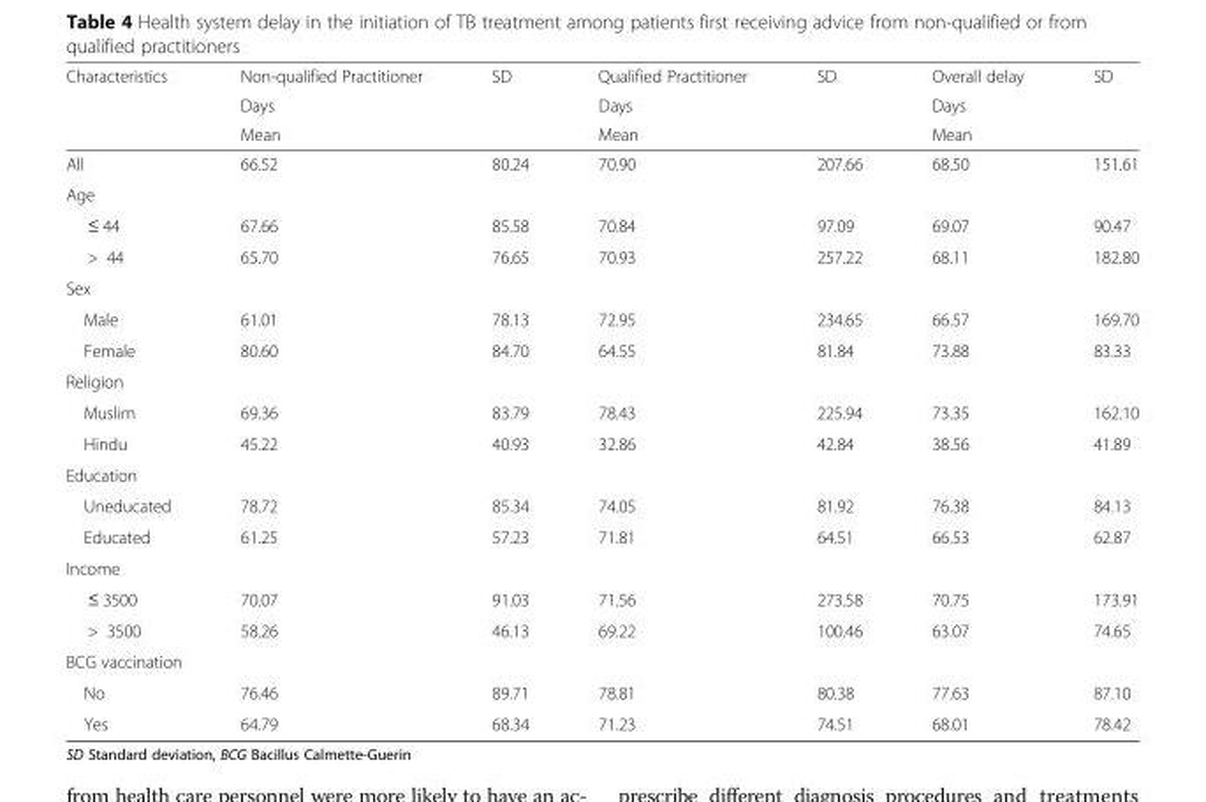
<table><thead><tr><td rowspan="3">Characteristics</td><td rowspan="3">Non-qualified Practitioner Days Mean</td><td rowspan="3">SD</td><td rowspan="3">Qualified Practitioner Days Mean</td><td rowspan="3">SD</td><td rowspan="3">Overall delay Days Mean</td><td rowspan="3">SD</td></tr><tr></tr><tr></tr></thead><tbody><tr><td>All</td><td>66.52</td><td>80.24</td><td>70.90</td><td>207.66</td><td>68.50</td><td>151.61</td></tr><tr><td colspan="7">Age</td></tr><tr><td>≤ 44</td><td>67.66</td><td>85.58</td><td>70.84</td><td>97.09</td><td>69.07</td><td>90.47</td></tr><tr><td>&gt; 44</td><td>65.70</td><td>76.65</td><td>70.93</td><td>257.22</td><td>68.11</td><td>182.80</td></tr><tr><td colspan="7">Sex</td></tr><tr><td>Male</td><td>61.01</td><td>78.13</td><td>72.95</td><td>234.65</td><td>66.57</td><td>169.70</td></tr><tr><td>Female</td><td>80.60</td><td>84.70</td><td>64.55</td><td>81.84</td><td>73.88</td><td>83.33</td></tr><tr><td colspan="7">Religion</td></tr><tr><td>Muslim</td><td>69.36</td><td>83.79</td><td>78.43</td><td>225.94</td><td>73.35</td><td>162.10</td></tr><tr><td>Hindu</td><td>45.22</td><td>40.93</td><td>32.86</td><td>42.84</td><td>38.56</td><td>41.89</td></tr><tr><td colspan="7">Education</td></tr><tr><td>Uneducated</td><td>78.72</td><td>85.34</td><td>74.05</td><td>81.92</td><td>76.38</td><td>84.13</td></tr><tr><td>Educated</td><td>61.25</td><td>57.23</td><td>71.81</td><td>64.51</td><td>66.53</td><td>62.87</td></tr><tr><td colspan="7">Income</td></tr><tr><td>≤ 3500</td><td>70.07</td><td>91.03</td><td>71.56</td><td>273.58</td><td>70.75</td><td>173.91</td></tr><tr><td>&gt; 3500</td><td>58.26</td><td>46.13</td><td>69.22</td><td>100.46</td><td>63.07</td><td>74.65</td></tr><tr><td colspan="7">BCG vaccination</td></tr><tr><td>No</td><td>76.46</td><td>89.71</td><td>78.81</td><td>80.38</td><td>77.63</td><td>87.10</td></tr><tr><td>Yes</td><td>64.79</td><td>68.34</td><td>71.23</td><td>74.51</td><td>68.01</td><td>78.42</td></tr></tbody></table>